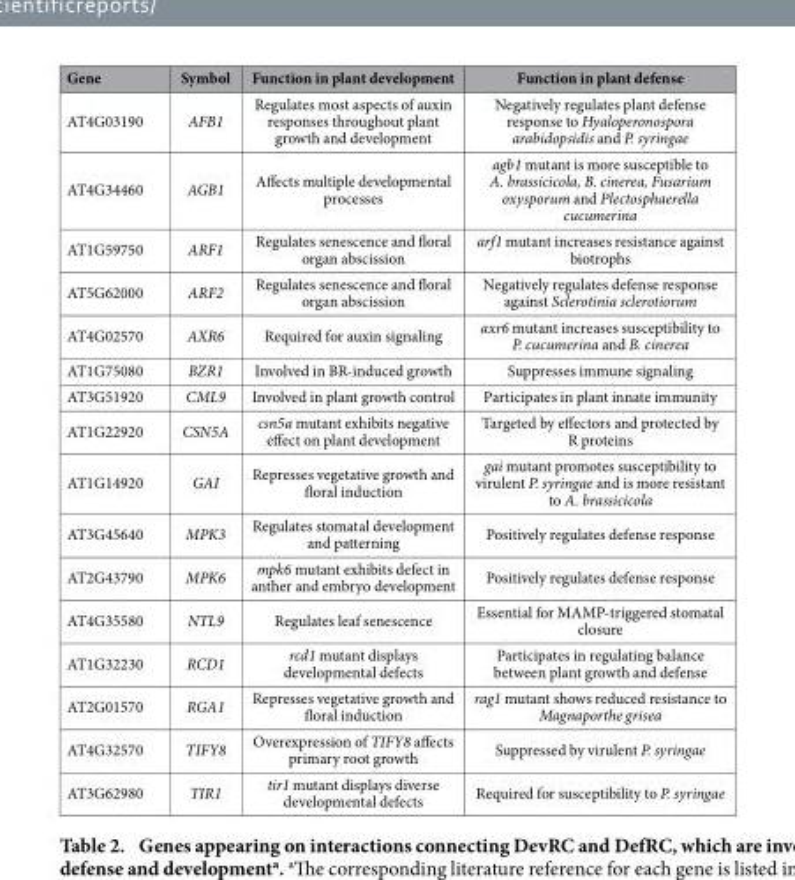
<table><thead><tr><td>Gene</td><td>Symbol</td><td>Function in plant development</td><td>Function in plant defense</td></tr></thead><tbody><tr><td>AT4G03190</td><td>AFB1</td><td>Regulates most aspects of auxin responses throughout plant growth and development</td><td>Negatively regulates plant defense response to Hyaloperonospora arabidopsidis and P. syringae</td></tr><tr><td>AT4G34460</td><td>AGB1</td><td>Affects multiple developmental processes</td><td>agb1 mutant is more susceptible to A. brassicicola, B. cinerea, Fusarium oxysporum and Plectosphaerella cucumerina</td></tr><tr><td>AT1G59750</td><td>ARF1</td><td>Regulates senescence and floral organ abscission</td><td>arf1 mutant increases resistance against biotrophs</td></tr><tr><td>AT5G62000</td><td>ARF2</td><td>Regulates senescence and floral organ abscission</td><td>Negatively regulates defense response against Sclerotinia sclerotiorum</td></tr><tr><td>AT4G02570</td><td>AXR6</td><td>Required for auxin signaling</td><td>axr6 mutant increases susceptibility to P. cucumerina and B. cinerea</td></tr><tr><td>AT1G75080</td><td>BZR1</td><td>Involved in BR-induced growth</td><td>Suppresses immune signaling</td></tr><tr><td>AT3G51920</td><td>CML9</td><td>Involved in plant growth control</td><td>Participates in plant innate immunity</td></tr><tr><td>AT1G22920</td><td>CSN5A</td><td>csn5a mutant exhibits negative effect on plant development</td><td>Targeted by effectors and protected by R proteins</td></tr><tr><td>AT1G14920</td><td>GAI</td><td>Represses vegetative growth and floral induction</td><td>gai mutant promotes susceptibility to virulent P. syringae and is more resistant to A. brassicicola</td></tr><tr><td>AT3G45640</td><td>MPK3</td><td>Regulates stomatal development and patterning</td><td>Positively regulates defense response</td></tr><tr><td>AT2G43790</td><td>MPK6</td><td>mpk6 mutant exhibits defect in anther and embryo development</td><td>Positively regulates defense response</td></tr><tr><td>AT4G35580</td><td>NTL9</td><td>Regulates leaf senescence</td><td>Essential for MAMP-triggered stomatal closure</td></tr><tr><td>AT1G32230</td><td>RCD1</td><td>rcd1 mutant displays developmental defects</td><td>Participates in regulating balance between plant growth and defense</td></tr><tr><td>AT2G01570</td><td>RGA1</td><td>Represses vegetative growth and floral induction</td><td>rag1 mutant shows reduced resistance to Magnaporthe grisea</td></tr><tr><td>AT4G32570</td><td>TIFY8</td><td>Overexpression of TIFY8 affects primary root growth</td><td>Suppressed by virulent P. syringae</td></tr><tr><td>AT3G62980</td><td>TIR1</td><td>tir1 mutant displays diverse developmental defects</td><td>Required for susceptibility to P. syringae</td></tr></tbody></table>